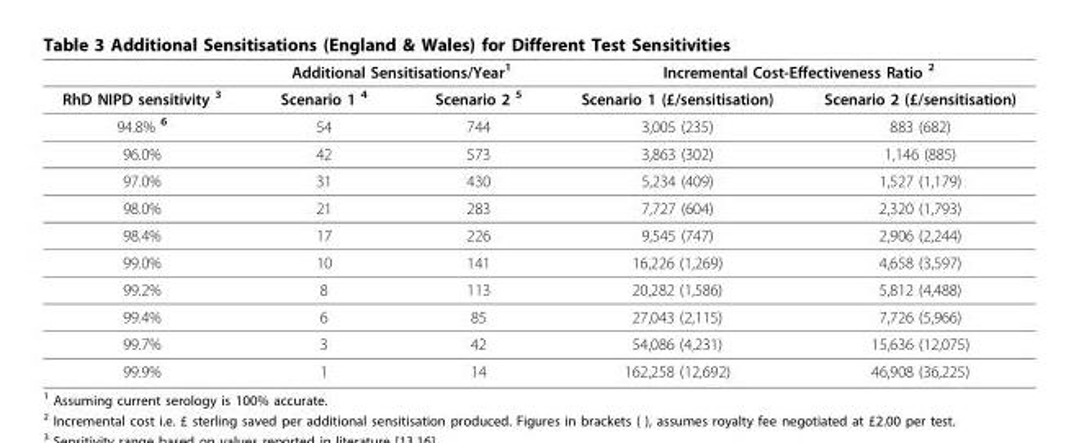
<table><thead><tr><td rowspan="2">RhD NIPD sensitivity <sup>3</sup></td><td colspan="2">Additional Sensitisations/Year<sup>1</sup></td><td colspan="2">Incremental Cost-Effectiveness Ratio <sup>2</sup></td></tr><tr><td>Scenario 1 <sup>4</sup></td><td>Scenario 2 <sup>5</sup></td><td>Scenario 1 (£/sensitisation)</td><td>Scenario 2 (£/sensitisation)</td></tr></thead><tbody><tr><td>94.8% <sup>6</sup></td><td>54</td><td>744</td><td>3,005 (235)</td><td>883 (682)</td></tr><tr><td>96.0%</td><td>42</td><td>573</td><td>3,863 (302)</td><td>1,146 (885)</td></tr><tr><td>97.0%</td><td>31</td><td>430</td><td>5,234 (409)</td><td>1,527 (1,179)</td></tr><tr><td>98.0%</td><td>21</td><td>283</td><td>7,727 (604)</td><td>2,320 (1,793)</td></tr><tr><td>98.4%</td><td>17</td><td>226</td><td>9,545 (747)</td><td>2,906 (2,244)</td></tr><tr><td>99.0%</td><td>10</td><td>141</td><td>16,226 (1,269)</td><td>4,658 (3,597)</td></tr><tr><td>99.2%</td><td>8</td><td>113</td><td>20,282 (1,586)</td><td>5,812 (4,488)</td></tr><tr><td>99.4%</td><td>6</td><td>85</td><td>27,043 (2,115)</td><td>7,726 (5,966)</td></tr><tr><td>99.7%</td><td>3</td><td>42</td><td>54,086 (4,231)</td><td>15,636 (12,075)</td></tr><tr><td>99.9%</td><td>1</td><td>14</td><td>162,258 (12,692)</td><td>46,908 (36,225)</td></tr></tbody></table>